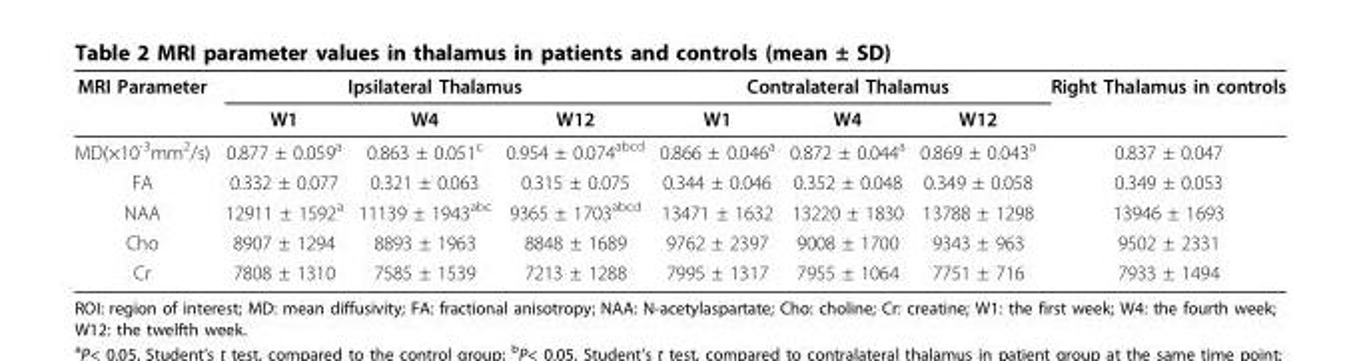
<table><thead><tr><td rowspan="2">MRI Parameter</td><td colspan="3">Ipsilateral Thalamus</td><td colspan="3">Contralateral Thalamus</td><td rowspan="2">Right Thalamus in controls</td></tr><tr><td>W1</td><td>W4</td><td>W12</td><td>W1</td><td>W4</td><td>W12</td></tr></thead><tbody><tr><td>MD(×10<sup>-3</sup>mm<sup>2</sup>/s)</td><td>0.877 ± 0.059<sup>a</sup></td><td>0.863 ± 0.051<sup>c</sup></td><td>0.954 ± 0.074<sup>abcd</sup></td><td>0.866 ± 0.046<sup>a</sup></td><td>0.872 ± 0.044<sup>a</sup></td><td>0.869 ± 0.043<sup>a</sup></td><td>0.837 ± 0.047</td></tr><tr><td>FA</td><td>0.332 ± 0.077</td><td>0.321 ± 0.063</td><td>0.315 ± 0.075</td><td>0.344 ± 0.046</td><td>0.352 ± 0.048</td><td>0.349 ± 0.058</td><td>0.349 ± 0.053</td></tr><tr><td>NAA</td><td>12911 ± 1592<sup>a</sup></td><td>11139 ± 1943<sup>abc</sup></td><td>9365 ± 1703<sup>abcd</sup></td><td>13471 ± 1632</td><td>13220 ± 1830</td><td>13788 ± 1298</td><td>13946 ± 1693</td></tr><tr><td>Cho</td><td>8907 ± 1294</td><td>8893 ± 1963</td><td>8848 ± 1689</td><td>9762 ± 2397</td><td>9008 ± 1700</td><td>9343 ± 963</td><td>9502 ± 2331</td></tr><tr><td>Cr</td><td>7808 ± 1310</td><td>7585 ± 1539</td><td>7213 ± 1288</td><td>7995 ± 1317</td><td>7955 ± 1064</td><td>7751 ± 716</td><td>7933 ± 1494</td></tr></tbody></table>